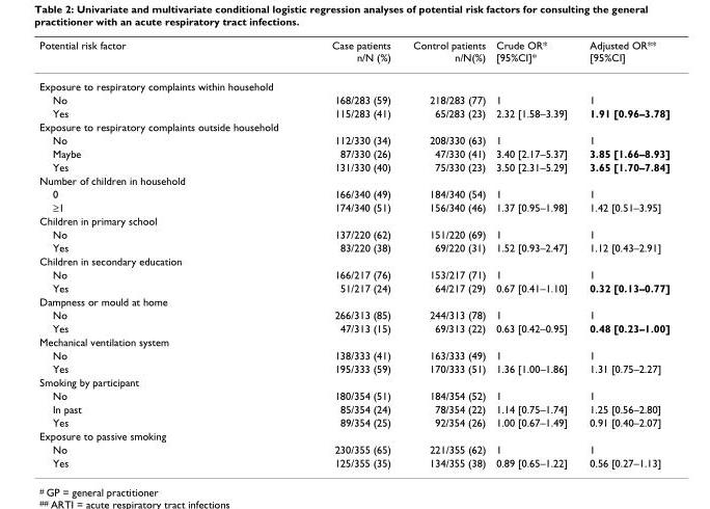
<table><thead><tr><td>Potential risk factor</td><td>Case patients n/N (%)</td><td>Control patients n/N(%)</td><td>Crude OR* [95%CI]*</td><td>Adjusted OR** [95%CI]</td></tr></thead><tbody><tr><td colspan="5">Exposure to respiratory complaints within household</td></tr><tr><td>No</td><td>168/283 (59)</td><td>218/283 (77)</td><td>1</td><td>1</td></tr><tr><td>Yes</td><td>115/283 (41)</td><td>65/283 (23)</td><td>2.32 [1.58–3.39]</td><td>1.91 [0.96–3.78]</td></tr><tr><td colspan="5">Exposure to respiratory complaints outside household</td></tr><tr><td>No</td><td>112/330 (34)</td><td>208/330 (63)</td><td>1</td><td>1</td></tr><tr><td>Maybe</td><td>87/330 (26)</td><td>47/330 (41)</td><td>3.40 [2.17–5.37]</td><td>3.85 [1.66–8.93]</td></tr><tr><td>Yes</td><td>131/330 (40)</td><td>75/330 (23)</td><td>3.50 [2.31–5.29]</td><td>3.65 [1.70–7.84]</td></tr><tr><td colspan="5">Number of children in household</td></tr><tr><td>0</td><td>166/340 (49)</td><td>184/340 (54)</td><td>1</td><td>1</td></tr><tr><td>≥1</td><td>174/340 (51)</td><td>156/340 (46)</td><td>1.37 [0.95–1.98]</td><td>1.42 [0.51–3.95]</td></tr><tr><td colspan="5">Children in primary school</td></tr><tr><td>No</td><td>137/220 (62)</td><td>151/220 (69)</td><td>1</td><td>1</td></tr><tr><td>Yes</td><td>83/220 (38)</td><td>69/220 (31)</td><td>1.52 [0.93–2.47]</td><td>1.12 [0.43–2.91]</td></tr><tr><td colspan="5">Children in secondary education</td></tr><tr><td>No</td><td>166/217 (76)</td><td>153/217 (71)</td><td>1</td><td>1</td></tr><tr><td>Yes</td><td>51/217 (24)</td><td>64/217 (29)</td><td>0.67 [0.41–1.10]</td><td>0.32 [0.13–0.77]</td></tr><tr><td colspan="5">Dampness or mould at home</td></tr><tr><td>No</td><td>266/313 (85)</td><td>244/313 (78)</td><td>1</td><td>1</td></tr><tr><td>Yes</td><td>47/313 (15)</td><td>69/313 (22)</td><td>0.63 [0.42–0.95]</td><td>0.48 [0.23–1.00]</td></tr><tr><td colspan="5">Mechanical ventilation system</td></tr><tr><td>No</td><td>138/333 (41)</td><td>163/333 (49)</td><td>1</td><td>1</td></tr><tr><td>Yes</td><td>195/333 (59)</td><td>170/333 (51)</td><td>1.36 [1.00–1.86]</td><td>1.31 [0.75–2.27]</td></tr><tr><td colspan="5">Smoking by participant</td></tr><tr><td>No</td><td>180/354 (51)</td><td>184/354 (52)</td><td>1</td><td>1</td></tr><tr><td>In past</td><td>85/354 (24)</td><td>78/354 (22)</td><td>1.14 [0.75–1.74]</td><td>1.25 [0.56–2.80]</td></tr><tr><td>Yes</td><td>89/354 (25)</td><td>92/354 (26)</td><td>1.00 [0.67–1.49]</td><td>0.91 [0.40–2.07]</td></tr><tr><td colspan="5">Exposure to passive smoking</td></tr><tr><td>No</td><td>230/355 (65)</td><td>221/355 (62)</td><td>1</td><td>1</td></tr><tr><td>Yes</td><td>125/355 (35)</td><td>134/355 (38)</td><td>0.89 [0.65–1.22]</td><td>0.56 [0.27–1.13]</td></tr></tbody></table>